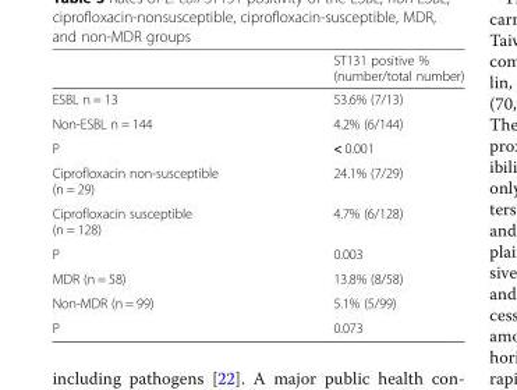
<table><thead><tr><td></td><td>ST131 positive % (number/total number)</td></tr></thead><tbody><tr><td>ESBL n = 13</td><td>53.6% (7/13)</td></tr><tr><td>Non-ESBL n = 144</td><td>4.2% (6/144)</td></tr><tr><td>P</td><td>&lt; 0.001</td></tr><tr><td>Ciprofloxacin non-susceptible (n = 29)</td><td>24.1% (7/29)</td></tr><tr><td>Ciprofloxacin susceptible (n = 128)</td><td>4.7% (6/128)</td></tr><tr><td>P</td><td>0.003</td></tr><tr><td>MDR (n = 58)</td><td>13.8% (8/58)</td></tr><tr><td>Non-MDR (n = 99)</td><td>5.1% (5/99)</td></tr><tr><td>P</td><td>0.073</td></tr></tbody></table>